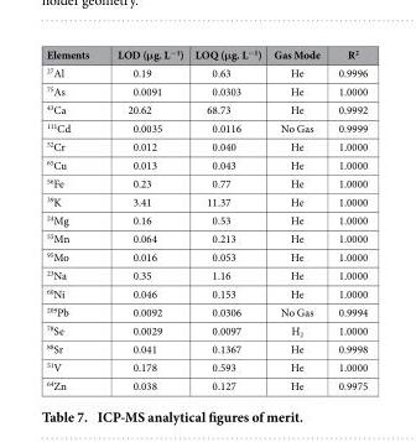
<table><thead><tr><td>Elements</td><td>LOD (μg. L<sup>−1</sup>)</td><td>LOQ (μg. L<sup>−1</sup>)</td><td>Gas Mode</td><td>R<sup>2</sup></td></tr></thead><tbody><tr><td><sup>27</sup>Al</td><td>0.19</td><td>0.63</td><td>He</td><td>0.9996</td></tr><tr><td><sup>75</sup>As</td><td>0.0091</td><td>0.0303</td><td>He</td><td>1.0000</td></tr><tr><td><sup>43</sup>Ca</td><td>20.62</td><td>68.73</td><td>He</td><td>0.9992</td></tr><tr><td><sup>111</sup>Cd</td><td>0.0035</td><td>0.0116</td><td>No Gas</td><td>0.9999</td></tr><tr><td><sup>52</sup>Cr</td><td>0.012</td><td>0.040</td><td>He</td><td>1.0000</td></tr><tr><td><sup>65</sup>Cu</td><td>0.013</td><td>0.043</td><td>He</td><td>1.0000</td></tr><tr><td><sup>56</sup>Fe</td><td>0.23</td><td>0.77</td><td>He</td><td>1.0000</td></tr><tr><td><sup>39</sup>K</td><td>3.41</td><td>11.37</td><td>He</td><td>1.0000</td></tr><tr><td><sup>24</sup>Mg</td><td>0.16</td><td>0.53</td><td>He</td><td>1.0000</td></tr><tr><td><sup>55</sup>Mn</td><td>0.064</td><td>0.213</td><td>He</td><td>1.0000</td></tr><tr><td><sup>95</sup>Mo</td><td>0.016</td><td>0.053</td><td>He</td><td>1.0000</td></tr><tr><td><sup>23</sup>Na</td><td>0.35</td><td>1.16</td><td>He</td><td>1.0000</td></tr><tr><td><sup>60</sup>Ni</td><td>0.046</td><td>0.153</td><td>He</td><td>1.0000</td></tr><tr><td><sup>209</sup>Pb</td><td>0.0092</td><td>0.0306</td><td>No Gas</td><td>0.9994</td></tr><tr><td><sup>78</sup>Se</td><td>0.0029</td><td>0.0097</td><td>H<sub>2</sub></td><td>1.0000</td></tr><tr><td><sup>88</sup>Sr</td><td>0.041</td><td>0.1367</td><td>He</td><td>0.9998</td></tr><tr><td><sup>51</sup>V</td><td>0.178</td><td>0.593</td><td>He</td><td>1.0000</td></tr><tr><td><sup>64</sup>Zn</td><td>0.038</td><td>0.127</td><td>He</td><td>0.9975</td></tr></tbody></table>